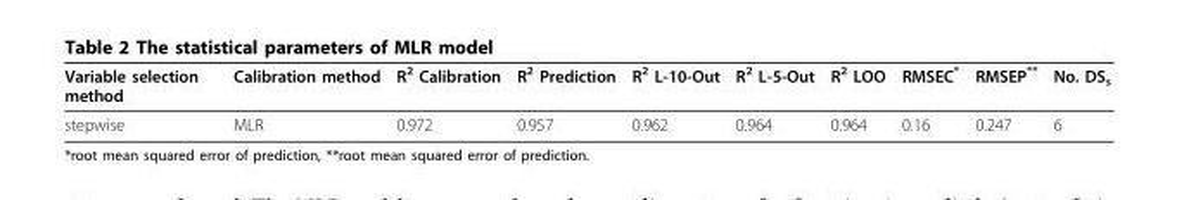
<table><thead><tr><td>Variable selection method</td><td>Calibration method</td><td>R<sup>2</sup> Calibration</td><td>R<sup>2</sup> Prediction</td><td>R<sup>2</sup> L-10-Out</td><td>R<sup>2</sup> L-5-Out</td><td>R<sup>2</sup> LOO</td><td>RMSEC*</td><td>RMSEP**</td><td>No. DS<sub>s</sub></td></tr></thead><tbody><tr><td>stepwise</td><td>MLR</td><td>0.972</td><td>0.957</td><td>0.962</td><td>0.964</td><td>0.964</td><td>0.16</td><td>0.247</td><td>6</td></tr></tbody></table>